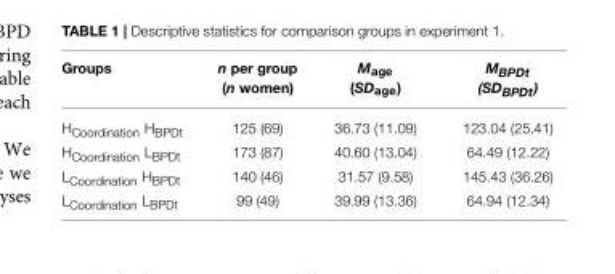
<table><thead><tr><td>Groups</td><td>n per group (n women)</td><td>M<sub>age</sub> (SD<sub>age</sub>)</td><td>MBPDt (SDBPDt)</td></tr></thead><tbody><tr><td>H<sub>Coordination</sub> H<sub>BPDt</sub></td><td>125 (69)</td><td>36.73 (11.09)</td><td>123.04 (25.41)</td></tr><tr><td>H<sub>Coordination</sub> L<sub>BPDt</sub></td><td>173 (87)</td><td>40.60 (13.04)</td><td>64.49 (12.22)</td></tr><tr><td>L<sub>Coordination</sub> H<sub>BPDt</sub></td><td>140 (46)</td><td>31.57 (9.58)</td><td>145.43 (36.26)</td></tr><tr><td>L<sub>Coordination</sub> L<sub>BPDt</sub></td><td>99 (49)</td><td>39.99 (13.36)</td><td>64.94 (12.34)</td></tr></tbody></table>